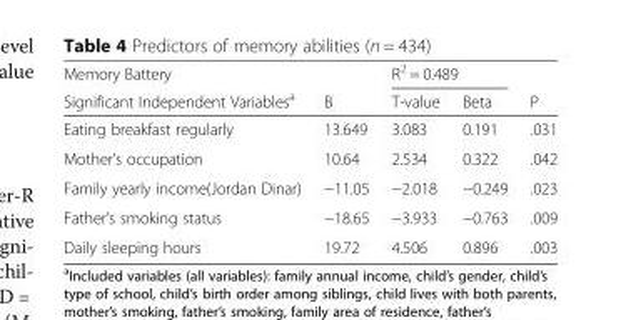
<table><thead><tr><td rowspan="2">Memory Battery Significant Independent Variables<sup>a</sup></td><td rowspan="2">B</td><td colspan="2">R<sup>2</sup> = 0.489</td><td rowspan="2">P</td></tr><tr><td>T-value</td><td>Beta</td></tr></thead><tbody><tr><td>Eating breakfast regularly</td><td>13.649</td><td>3.083</td><td>0.191</td><td>.031</td></tr><tr><td>Mother’s occupation</td><td>10.64</td><td>2.534</td><td>0.322</td><td>.042</td></tr><tr><td>Family yearly income(Jordan Dinar)</td><td>−11.05</td><td>−2.018</td><td>−0.249</td><td>.023</td></tr><tr><td>Father’s smoking status</td><td>−18.65</td><td>−3.933</td><td>−0.763</td><td>.009</td></tr><tr><td>Daily sleeping hours</td><td>19.72</td><td>4.506</td><td>0.896</td><td>.003</td></tr></tbody></table>